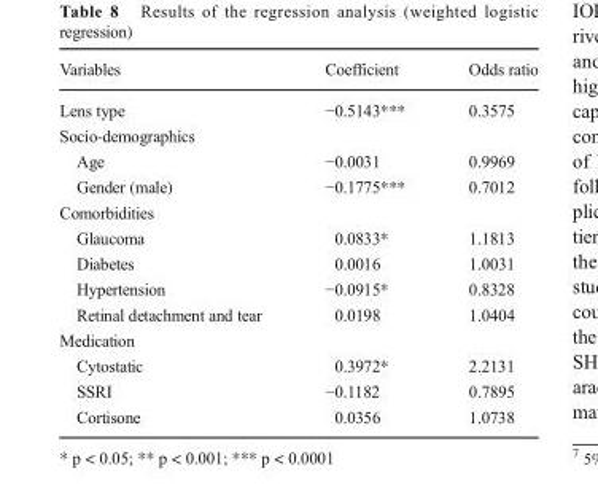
<table><thead><tr><td>Variables</td><td>Coefficient</td><td>Odds ratio</td></tr></thead><tbody><tr><td>Lens type</td><td>−0.5143***</td><td>0.3575</td></tr><tr><td colspan="3">Socio-demographics</td></tr><tr><td>Age</td><td>−0.0031</td><td>0.9969</td></tr><tr><td>Gender (male)</td><td>−0.1775***</td><td>0.7012</td></tr><tr><td colspan="3">Comorbidities</td></tr><tr><td>Glaucoma</td><td>0.0833*</td><td>1.1813</td></tr><tr><td>Diabetes</td><td>0.0016</td><td>1.0031</td></tr><tr><td>Hypertension</td><td>−0.0915*</td><td>0.8328</td></tr><tr><td>Retinal detachment and tear</td><td>0.0198</td><td>1.0404</td></tr><tr><td colspan="3">Medication</td></tr><tr><td>Cytostatic</td><td>0.3972*</td><td>2.2131</td></tr><tr><td>SSRI</td><td>−0.1182</td><td>0.7895</td></tr><tr><td>Cortisone</td><td>0.0356</td><td>1.0738</td></tr></tbody></table>